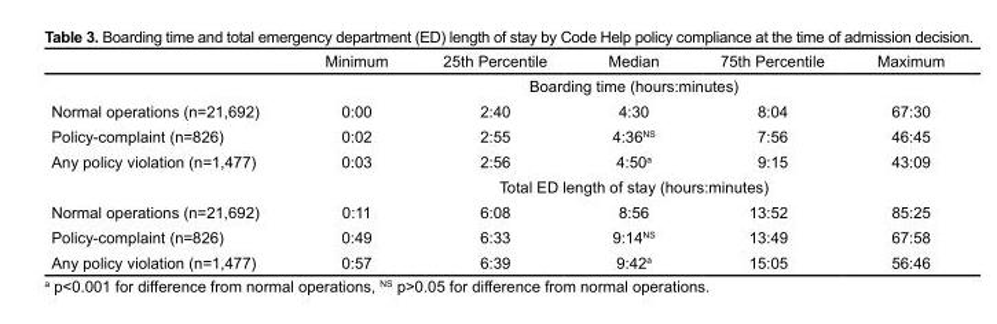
<table><thead><tr><td></td><td>Minimum</td><td>25th Percentile</td><td>Median</td><td>75th Percentile</td><td>Maximum</td></tr></thead><tbody><tr><td></td><td colspan="5">Boarding time (hours:minutes)</td></tr><tr><td>Normal operations (n=21,692)</td><td>0:00</td><td>2:40</td><td>4:30</td><td>8:04</td><td>67:30</td></tr><tr><td>Policy-complaint (n=826)</td><td>0:02</td><td>2:55</td><td>4:36<sup>NS</sup></td><td>7:56</td><td>46:45</td></tr><tr><td rowspan="2">Any policy violation (n=1,477)</td><td>0:03</td><td>2:56</td><td>4:50<sup>a</sup></td><td>9:15</td><td>43:09</td></tr><tr><td colspan="5">Total ED length of stay (hours:minutes)</td></tr><tr><td>Normal operations (n=21,692)</td><td>0:11</td><td>6:08</td><td>8:56</td><td>13:52</td><td>85:25</td></tr><tr><td>Policy-complaint (n=826)</td><td>0:49</td><td>6:33</td><td>9:14<sup>NS</sup></td><td>13:49</td><td>67:58</td></tr><tr><td>Any policy violation (n=1,477)</td><td>0:57</td><td>6:39</td><td>9:42<sup>a</sup></td><td>15:05</td><td>56:46</td></tr></tbody></table>